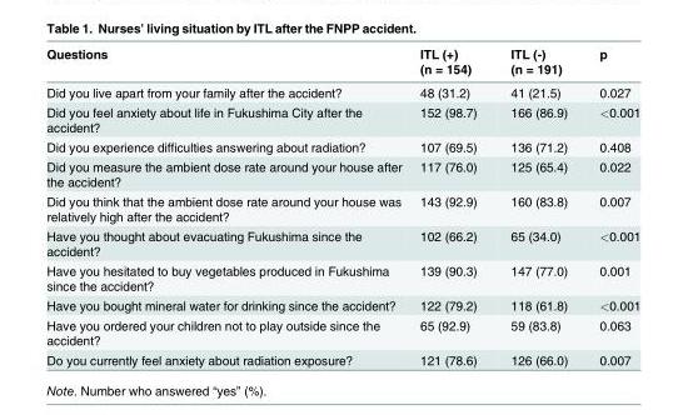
<table><thead><tr><td>Questions</td><td>ITL (+) (n = 154)</td><td>ITL (-) (n = 191)</td><td>p</td></tr></thead><tbody><tr><td>Did you live apart from your family after the accident?</td><td>48 (31.2)</td><td>41 (21.5)</td><td>0.027</td></tr><tr><td>Did you feel anxiety about life in Fukushima City after the accident?</td><td>152 (98.7)</td><td>166 (86.9)</td><td>&lt;0.001</td></tr><tr><td>Did you experience difficulties answering about radiation?</td><td>107 (69.5)</td><td>136 (71.2)</td><td>0.408</td></tr><tr><td>Did you measure the ambient dose rate around your house after the accident?</td><td>117 (76.0)</td><td>125 (65.4)</td><td>0.022</td></tr><tr><td>Did you think that the ambient dose rate around your house was relatively high after the accident?</td><td>143 (92.9)</td><td>160 (83.8)</td><td>0.007</td></tr><tr><td>Have you thought about evacuating Fukushima since the accident?</td><td>102 (66.2)</td><td>65 (34.0)</td><td>&lt;0.001</td></tr><tr><td>Have you hesitated to buy vegetables produced in Fukushima since the accident?</td><td>139 (90.3)</td><td>147 (77.0)</td><td>0.001</td></tr><tr><td>Have you bought mineral water for drinking since the accident?</td><td>122 (79.2)</td><td>118 (61.8)</td><td>&lt;0.001</td></tr><tr><td>Have you ordered your children not to play outside since the accident?</td><td>65 (92.9)</td><td>59 (83.8)</td><td>0.063</td></tr><tr><td>Do you currently feel anxiety about radiation exposure?</td><td>121 (78.6)</td><td>126 (66.0)</td><td>0.007</td></tr></tbody></table>